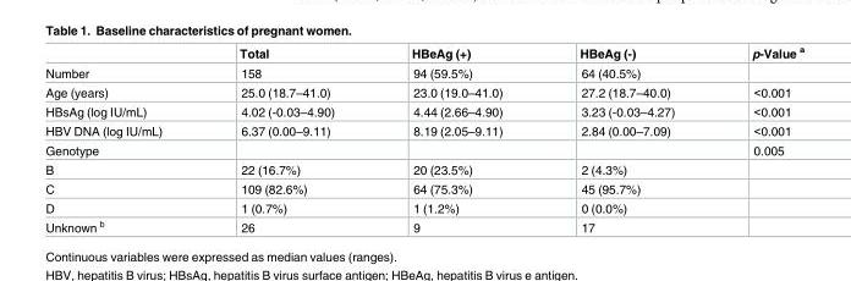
<table><thead><tr><td></td><td>Total</td><td>HBeAg (+)</td><td>HBeAg (-)</td><td>p-Value <sup>a</sup></td></tr></thead><tbody><tr><td>Number</td><td>158</td><td>94 (59.5%)</td><td>64 (40.5%)</td><td></td></tr><tr><td>Age (years)</td><td>25.0 (18.7–41.0)</td><td>23.0 (19.0–41.0)</td><td>27.2 (18.7–40.0)</td><td>&lt;0.001</td></tr><tr><td>HBsAg (log IU/mL)</td><td>4.02 (-0.03–4.90)</td><td>4.44 (2.66–4.90)</td><td>3.23 (-0.03–4.27)</td><td>&lt;0.001</td></tr><tr><td>HBV DNA (log IU/mL)</td><td>6.37 (0.00–9.11)</td><td>8.19 (2.05–9.11)</td><td>2.84 (0.00–7.09)</td><td>&lt;0.001</td></tr><tr><td>Genotype</td><td></td><td></td><td></td><td>0.005</td></tr><tr><td>B</td><td>22 (16.7%)</td><td>20 (23.5%)</td><td>2 (4.3%)</td><td></td></tr><tr><td>C</td><td>109 (82.6%)</td><td>64 (75.3%)</td><td>45 (95.7%)</td><td></td></tr><tr><td>D</td><td>1 (0.7%)</td><td>1 (1.2%)</td><td>0 (0.0%)</td><td></td></tr><tr><td>Unknown <sup>b</sup></td><td>26</td><td>9</td><td>17</td><td></td></tr></tbody></table>